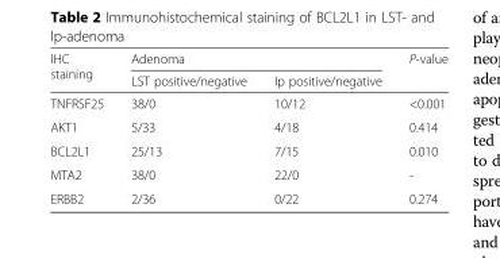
<table><thead><tr><td rowspan="2">IHC staining</td><td colspan="2">Adenoma</td><td rowspan="2">P-value</td></tr><tr><td>LST positive/negative</td><td>Ip positive/negative</td></tr></thead><tbody><tr><td>TNFRSF25</td><td>38/0</td><td>10/12</td><td>&lt;0.001</td></tr><tr><td>AKT1</td><td>5/33</td><td>4/18</td><td>0.414</td></tr><tr><td>BCL2L1</td><td>25/13</td><td>7/15</td><td>0.010</td></tr><tr><td>MTA2</td><td>38/0</td><td>22/0</td><td>-</td></tr><tr><td>ERBB2</td><td>2/36</td><td>0/22</td><td>0.274</td></tr></tbody></table>